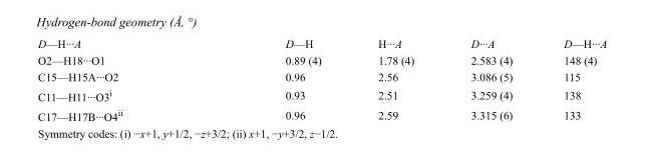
<table><tbody><tr><td>D—H···A</td><td>D—H</td><td>H···A</td><td>D···A</td><td>D—H···A</td></tr><tr><td>O2—H18···O1</td><td>0.89 (4)</td><td>1.78 (4)</td><td>2.583 (4)</td><td>148 (4)</td></tr><tr><td>C15—H15A···O2</td><td>0.96</td><td>2.56</td><td>3.086 (5)</td><td>115</td></tr><tr><td>C11—H11···O3<sup>i</sup></td><td>0.93</td><td>2.51</td><td>3.259 (4)</td><td>138</td></tr><tr><td>C17—H17B···O4<sup>ii</sup></td><td>0.96</td><td>2.59</td><td>3.315 (6)</td><td>133</td></tr></tbody></table>